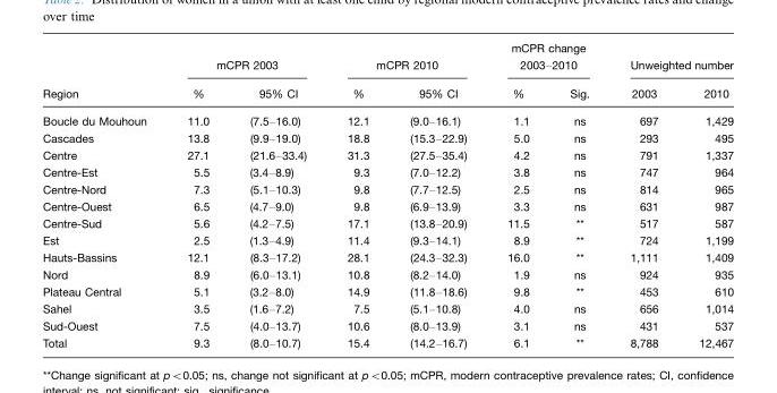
<table><thead><tr><td rowspan="2">Region</td><td colspan="2">mCPR 2003</td><td colspan="2">mCPR 2010</td><td colspan="2">mCPR change 2003–2010</td><td colspan="2">Unweighted number</td></tr><tr><td>%</td><td>95% CI</td><td>%</td><td>95% CI</td><td>%</td><td>Sig.</td><td>2003</td><td>2010</td></tr></thead><tbody><tr><td>Boucle du Mouhoun</td><td>11.0</td><td>(7.5–16.0)</td><td>12.1</td><td>(9.0–16.1)</td><td>1.1</td><td>ns</td><td>697</td><td>1,429</td></tr><tr><td>Cascades</td><td>13.8</td><td>(9.9–19.0)</td><td>18.8</td><td>(15.3–22.9)</td><td>5.0</td><td>ns</td><td>293</td><td>495</td></tr><tr><td>Centre</td><td>27.1</td><td>(21.6–33.4)</td><td>31.3</td><td>(27.5–35.4)</td><td>4.2</td><td>ns</td><td>791</td><td>1,337</td></tr><tr><td>Centre-Est</td><td>5.5</td><td>(3.4–8.9)</td><td>9.3</td><td>(7.0–12.2)</td><td>3.8</td><td>ns</td><td>747</td><td>964</td></tr><tr><td>Centre-Nord</td><td>7.3</td><td>(5.1–10.3)</td><td>9.8</td><td>(7.7–12.5)</td><td>2.5</td><td>ns</td><td>814</td><td>965</td></tr><tr><td>Centre-Ouest</td><td>6.5</td><td>(4.7–9.0)</td><td>9.8</td><td>(6.9–13.9)</td><td>3.3</td><td>ns</td><td>631</td><td>987</td></tr><tr><td>Centre-Sud</td><td>5.6</td><td>(4.2–7.5)</td><td>17.1</td><td>(13.8–20.9)</td><td>11.5</td><td>**</td><td>517</td><td>587</td></tr><tr><td>Est</td><td>2.5</td><td>(1.3–4.9)</td><td>11.4</td><td>(9.3–14.1)</td><td>8.9</td><td>**</td><td>724</td><td>1,199</td></tr><tr><td>Hauts-Bassins</td><td>12.1</td><td>(8.3–17.2)</td><td>28.1</td><td>(24.3–32.3)</td><td>16.0</td><td>**</td><td>1,111</td><td>1,409</td></tr><tr><td>Nord</td><td>8.9</td><td>(6.0–13.1)</td><td>10.8</td><td>(8.2–14.0)</td><td>1.9</td><td>ns</td><td>924</td><td>935</td></tr><tr><td>Plateau Central</td><td>5.1</td><td>(3.2–8.0)</td><td>14.9</td><td>(11.8–18.6)</td><td>9.8</td><td>**</td><td>453</td><td>610</td></tr><tr><td>Sahel</td><td>3.5</td><td>(1.6–7.2)</td><td>7.5</td><td>(5.1–10.8)</td><td>4.0</td><td>ns</td><td>656</td><td>1,014</td></tr><tr><td>Sud-Ouest</td><td>7.5</td><td>(4.0–13.7)</td><td>10.6</td><td>(8.0–13.9)</td><td>3.1</td><td>ns</td><td>431</td><td>537</td></tr><tr><td>Total</td><td>9.3</td><td>(8.0–10.7)</td><td>15.4</td><td>(14.2–16.7)</td><td>6.1</td><td>**</td><td>8,788</td><td>12,467</td></tr></tbody></table>